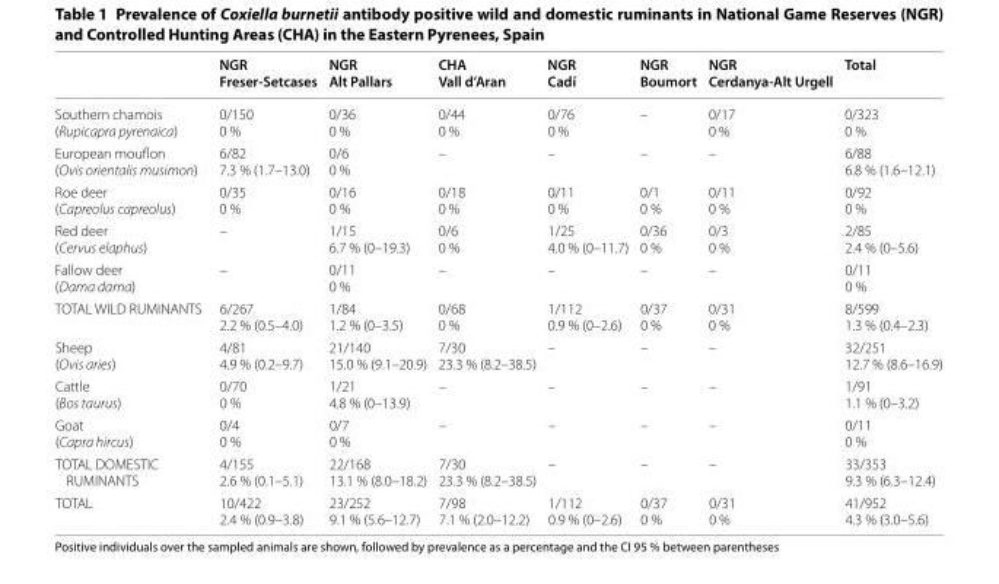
<table><thead><tr><td></td><td>NGR Freser-Setcases</td><td>NGR Alt Pallars</td><td>CHA Vall d’Aran</td><td>NGR Cadí</td><td>NGR Boumort</td><td>NGR Cerdanya-Alt Urgell</td><td>Total</td></tr></thead><tbody><tr><td>Southern chamois (Rupicapra pyrenaica)</td><td>0/150 0 %</td><td>0/36 0 %</td><td>0/44 0 %</td><td>0/76 0 %</td><td>–</td><td>0/17 0 %</td><td>0/323 0 %</td></tr><tr><td>European mouflon (Ovis orientalis musimon)</td><td>6/82 7.3 % (1.7–13.0)</td><td>0/6 0 %</td><td>–</td><td>–</td><td>–</td><td>–</td><td>6/88 6.8 % (1.6–12.1)</td></tr><tr><td>Roe deer (Capreolus capreolus)</td><td>0/35 0 %</td><td>0/16 0 %</td><td>0/18 0 %</td><td>0/11 0 %</td><td>0/1 0 %</td><td>0/11 0 %</td><td>0/92 0 %</td></tr><tr><td>Red deer (Cervus elaphus)</td><td>–</td><td>1/15 6.7 % (0–19.3)</td><td>0/6 0 %</td><td>1/25 4.0 % (0–11.7)</td><td>0/36 0 %</td><td>0/3 0 %</td><td>2/85 2.4 % (0–5.6)</td></tr><tr><td>Fallow deer (Dama dama)</td><td>–</td><td>0/11 0 %</td><td>–</td><td>–</td><td>–</td><td>–</td><td>0/11 0 %</td></tr><tr><td>TOTAL WILD RUMINANTS</td><td>6/267 2.2 % (0.5–4.0)</td><td>1/84 1.2 % (0–3.5)</td><td>0/68 0 %</td><td>1/112 0.9 % (0–2.6)</td><td>0/37 0 %</td><td>0/31 0 %</td><td>8/599 1.3 % (0.4–2.3)</td></tr><tr><td>Sheep (Ovis aries)</td><td>4/81 4.9 % (0.2–9.7)</td><td>21/140 15.0 % (9.1–20.9)</td><td>7/30 23.3 % (8.2–38.5)</td><td>–</td><td>–</td><td>–</td><td>32/251 12.7 % (8.6–16.9)</td></tr><tr><td>Cattle (Bos taurus)</td><td>0/70 0 %</td><td>1/21 4.8 % (0–13.9)</td><td>–</td><td>–</td><td>–</td><td>–</td><td>1/91 1.1 % (0–3.2)</td></tr><tr><td>Goat (Capra hircus)</td><td>0/4 0 %</td><td>0/7 0 %</td><td>–</td><td>–</td><td>–</td><td>–</td><td>0/11 0 %</td></tr><tr><td>TOTAL DOMESTIC RUMINANTS</td><td>4/155 2.6 % (0.1–5.1)</td><td>22/168 13.1 % (8.0–18.2)</td><td>7/30 23.3 % (8.2–38.5)</td><td>–</td><td>–</td><td>–</td><td>33/353 9.3 % (6.3–12.4)</td></tr><tr><td>TOTAL</td><td>10/422 2.4 % (0.9–3.8)</td><td>23/252 9.1 % (5.6–12.7)</td><td>7/98 7.1 % (2.0–12.2)</td><td>1/112 0.9 % (0–2.6)</td><td>0/37 0 %</td><td>0/31 0 %</td><td>41/952 4.3 % (3.0–5.6)</td></tr></tbody></table>